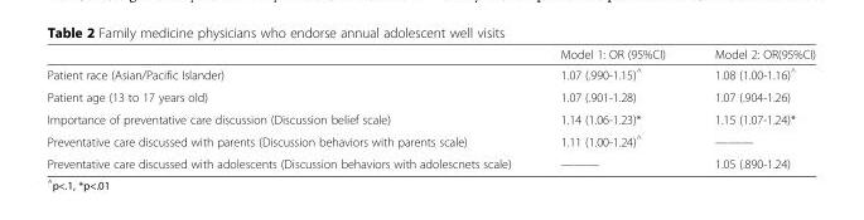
<table><thead><tr><td></td><td>Model 1: OR (95%CI)</td><td>Model 2: OR(95%CI)</td></tr></thead><tbody><tr><td>Patient race (Asian/Pacific Islander)</td><td>1.07 (.990-1.15)<sup>^</sup></td><td>1.08 (1.00-1.16)<sup>^</sup></td></tr><tr><td>Patient age (13 to 17 years old)</td><td>1.07 (.901-1.28)</td><td>1.07 (.904-1.26)</td></tr><tr><td>Importance of preventative care discussion (Discussion belief scale)</td><td>1.14 (1.06-1.23)*</td><td>1.15 (1.07-1.24)*</td></tr><tr><td>Preventative care discussed with parents (Discussion behaviors with parents scale)</td><td>1.11 (1.00-1.24)<sup>^</sup></td><td>———</td></tr><tr><td>Preventative care discussed with adolescents (Discussion behaviors with adolescnets scale)</td><td>———</td><td>1.05 (.890-1.24)</td></tr></tbody></table>